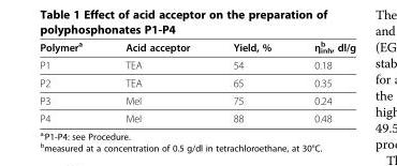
<table><thead><tr><td>Polymer<sup>a</sup></td><td>Acid acceptor</td><td>Yield, %</td><td>η<sub>inh</sub> <sup>b</sup> , dl/g</td></tr></thead><tbody><tr><td>P1</td><td>TEA</td><td>54</td><td>0.18</td></tr><tr><td>P2</td><td>TEA</td><td>65</td><td>0.35</td></tr><tr><td>P3</td><td>MeI</td><td>75</td><td>0.24</td></tr><tr><td>P4</td><td>MeI</td><td>88</td><td>0.48</td></tr></tbody></table>